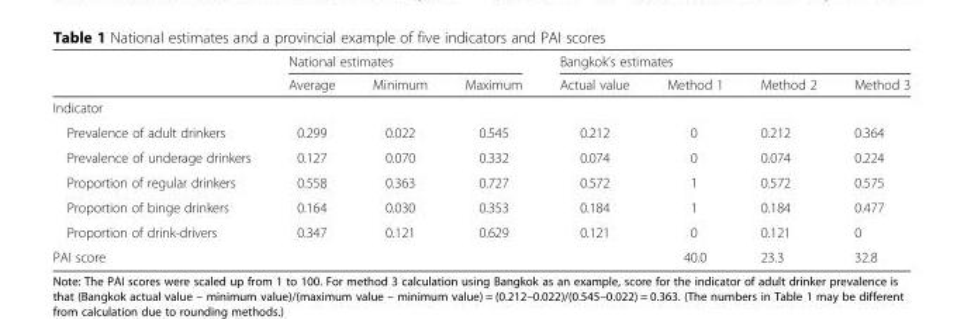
<table><thead><tr><td rowspan="2"></td><td colspan="3">National estimates</td><td colspan="4">Bangkok’s estimates</td></tr><tr><td>Average</td><td>Minimum</td><td>Maximum</td><td>Actual value</td><td>Method 1</td><td>Method 2</td><td>Method 3</td></tr></thead><tbody><tr><td colspan="8">Indicator</td></tr><tr><td>Prevalence of adult drinkers</td><td>0.299</td><td>0.022</td><td>0.545</td><td>0.212</td><td>0</td><td>0.212</td><td>0.364</td></tr><tr><td>Prevalence of underage drinkers</td><td>0.127</td><td>0.070</td><td>0.332</td><td>0.074</td><td>0</td><td>0.074</td><td>0.224</td></tr><tr><td>Proportion of regular drinkers</td><td>0.558</td><td>0.363</td><td>0.727</td><td>0.572</td><td>1</td><td>0.572</td><td>0.575</td></tr><tr><td>Proportion of binge drinkers</td><td>0.164</td><td>0.030</td><td>0.353</td><td>0.184</td><td>1</td><td>0.184</td><td>0.477</td></tr><tr><td>Proportion of drink-drivers</td><td>0.347</td><td>0.121</td><td>0.629</td><td>0.121</td><td>0</td><td>0.121</td><td>0</td></tr><tr><td>PAI score</td><td></td><td></td><td></td><td></td><td>40.0</td><td>23.3</td><td>32.8</td></tr></tbody></table>